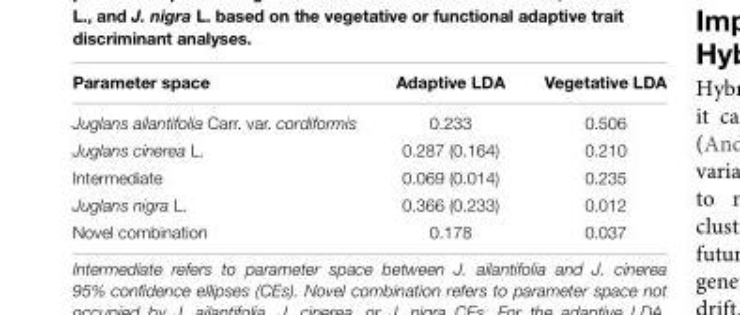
<table><thead><tr><td>Parameter space</td><td>Adaptive LDA</td><td>Vegetative LDA</td></tr></thead><tbody><tr><td>Juglans ailantifolia Carr. var. cordiformis</td><td>0.233</td><td>0.506</td></tr><tr><td>Juglans cinerea L.</td><td>0.287 (0.164)</td><td>0.210</td></tr><tr><td>Intermediate</td><td>0.069 (0.014)</td><td>0.235</td></tr><tr><td>Juglans nigra L.</td><td>0.366 (0.233)</td><td>0.012</td></tr><tr><td>Novel combination</td><td>0.178</td><td>0.037</td></tr></tbody></table>